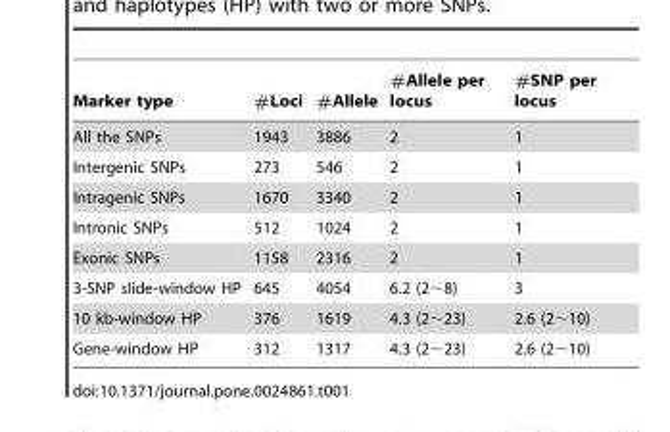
<table><thead><tr><td>Marker type</td><td>#Loci</td><td>#Allele</td><td>#Allele per locus</td><td>#SNP per locus</td></tr></thead><tbody><tr><td>All the SNPs</td><td>1943</td><td>3886</td><td>2</td><td>1</td></tr><tr><td>Intergenic SNPs</td><td>273</td><td>546</td><td>2</td><td>1</td></tr><tr><td>Intragenic SNPs</td><td>1670</td><td>3340</td><td>2</td><td>1</td></tr><tr><td>Intronic SNPs</td><td>512</td><td>1024</td><td>2</td><td>1</td></tr><tr><td>Exonic SNPs</td><td>1158</td><td>2316</td><td>2</td><td>1</td></tr><tr><td>3-SNP slide-window HP</td><td>645</td><td>4054</td><td>6.2 (2∼8)</td><td>3</td></tr><tr><td>10 kb-window HP</td><td>376</td><td>1619</td><td>4.3 (2∼23)</td><td>2.6 (2∼10)</td></tr><tr><td>Gene-window HP</td><td>312</td><td>1317</td><td>4.3 (2∼23)</td><td>2.6 (2∼10)</td></tr></tbody></table>